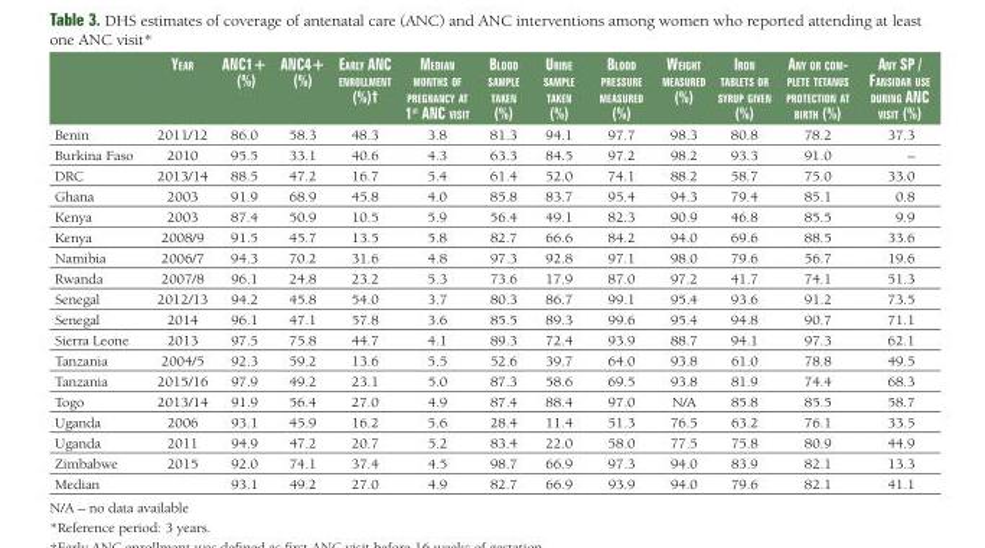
<table><thead><tr><td></td><td>year</td><td>anc1+ (%)</td><td>anc4+ (%)</td><td>early anc enrollment (%)†</td><td>meDian months of Pregnancy at 1 <sup>st</sup> anc visit</td><td>blooD samPle taken (%)</td><td>urine samPle taken (%)</td><td>blooD Pressure measureD (%)</td><td>weight measureD (%)</td><td>iron tablets or syruP given (%)</td><td>any or com- Plete tetanus Protection at birth (%)</td><td>any sP / fansiDar use During anc visit (%)</td></tr></thead><tbody><tr><td>Benin</td><td>2011/12</td><td>86.0</td><td>58.3</td><td>48.3</td><td>3.8</td><td>81.3</td><td>94.1</td><td>97.7</td><td>98.3</td><td>80.8</td><td>78.2</td><td>37.3</td></tr><tr><td>Burkina Faso</td><td>2010</td><td>95.5</td><td>33.1</td><td>40.6</td><td>4.3</td><td>63.3</td><td>84.5</td><td>97.2</td><td>98.2</td><td>93.3</td><td>91.0</td><td>–</td></tr><tr><td>DRC</td><td>2013/14</td><td>88.5</td><td>47.2</td><td>16.7</td><td>5.4</td><td>61.4</td><td>52.0</td><td>74.1</td><td>88.2</td><td>58.7</td><td>75.0</td><td>33.0</td></tr><tr><td>Ghana</td><td>2003</td><td>91.9</td><td>68.9</td><td>45.8</td><td>4.0</td><td>85.8</td><td>83.7</td><td>95.4</td><td>94.3</td><td>79.4</td><td>85.1</td><td>0.8</td></tr><tr><td>Kenya</td><td>2003</td><td>87.4</td><td>50.9</td><td>10.5</td><td>5.9</td><td>56.4</td><td>49.1</td><td>82.3</td><td>90.9</td><td>46.8</td><td>85.5</td><td>9.9</td></tr><tr><td>Kenya</td><td>2008/9</td><td>91.5</td><td>45.7</td><td>13.5</td><td>5.8</td><td>82.7</td><td>66.6</td><td>84.2</td><td>94.0</td><td>69.6</td><td>88.5</td><td>33.6</td></tr><tr><td>Namibia</td><td>2006/7</td><td>94.3</td><td>70.2</td><td>31.6</td><td>4.8</td><td>97.3</td><td>92.8</td><td>97.1</td><td>98.0</td><td>79.6</td><td>56.7</td><td>19.6</td></tr><tr><td>Rwanda</td><td>2007/8</td><td>96.1</td><td>24.8</td><td>23.2</td><td>5.3</td><td>73.6</td><td>17.9</td><td>87.0</td><td>97.2</td><td>41.7</td><td>74.1</td><td>51.3</td></tr><tr><td>Senegal</td><td>2012/13</td><td>94.2</td><td>45.8</td><td>54.0</td><td>3.7</td><td>80.3</td><td>86.7</td><td>99.1</td><td>95.4</td><td>93.6</td><td>91.2</td><td>73.5</td></tr><tr><td>Senegal</td><td>2014</td><td>96.1</td><td>47.1</td><td>57.8</td><td>3.6</td><td>85.5</td><td>89.3</td><td>99.6</td><td>95.4</td><td>94.8</td><td>90.7</td><td>71.1</td></tr><tr><td>Sierra Leone</td><td>2013</td><td>97.5</td><td>75.8</td><td>44.7</td><td>4.1</td><td>89.3</td><td>72.4</td><td>93.9</td><td>88.7</td><td>94.1</td><td>97.3</td><td>62.1</td></tr><tr><td>Tanzania</td><td>2004/5</td><td>92.3</td><td>59.2</td><td>13.6</td><td>5.5</td><td>52.6</td><td>39.7</td><td>64.0</td><td>93.8</td><td>61.0</td><td>78.8</td><td>49.5</td></tr><tr><td>Tanzania</td><td>2015/16</td><td>97.9</td><td>49.2</td><td>23.1</td><td>5.0</td><td>87.3</td><td>58.6</td><td>69.5</td><td>93.8</td><td>81.9</td><td>74.4</td><td>68.3</td></tr><tr><td>Togo</td><td>2013/14</td><td>91.9</td><td>56.4</td><td>27.0</td><td>4.9</td><td>87.4</td><td>88.4</td><td>97.0</td><td>N/A</td><td>85.8</td><td>85.5</td><td>58.7</td></tr><tr><td>Uganda</td><td>2006</td><td>93.1</td><td>45.9</td><td>16.2</td><td>5.6</td><td>28.4</td><td>11.4</td><td>51.3</td><td>76.5</td><td>63.2</td><td>76.1</td><td>33.5</td></tr><tr><td>Uganda</td><td>2011</td><td>94.9</td><td>47.2</td><td>20.7</td><td>5.2</td><td>83.4</td><td>22.0</td><td>58.0</td><td>77.5</td><td>75.8</td><td>80.9</td><td>44.9</td></tr><tr><td>Zimbabwe</td><td>2015</td><td>92.0</td><td>74.1</td><td>37.4</td><td>4.5</td><td>98.7</td><td>66.9</td><td>97.3</td><td>94.0</td><td>83.9</td><td>82.1</td><td>13.3</td></tr><tr><td>Median</td><td></td><td>93.1</td><td>49.2</td><td>27.0</td><td>4.9</td><td>82.7</td><td>66.9</td><td>93.9</td><td>94.0</td><td>79.6</td><td>82.1</td><td>41.1</td></tr></tbody></table>